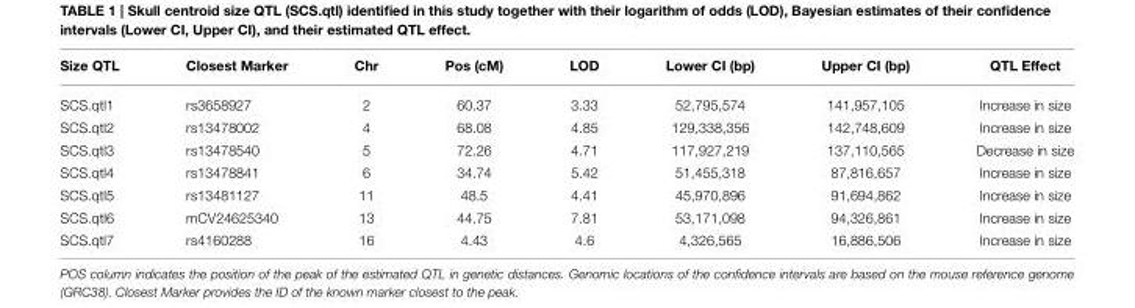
<table><thead><tr><td>Size QTL</td><td>Closest Marker</td><td>Chr</td><td>Pos (cM)</td><td>LOD</td><td>Lower CI (bp)</td><td>Upper CI (bp)</td><td>QTL Effect</td></tr></thead><tbody><tr><td>SCS.qtl1</td><td>rs3658927</td><td>2</td><td>60.37</td><td>3.33</td><td>52,795,574</td><td>141,957,105</td><td>Increase in size</td></tr><tr><td>SCS.qtl2</td><td>rs13478002</td><td>4</td><td>68.08</td><td>4.85</td><td>129,338,356</td><td>142,748,609</td><td>Increase in size</td></tr><tr><td>SCS.qtl3</td><td>rs13478540</td><td>5</td><td>72.26</td><td>4.71</td><td>117,927,219</td><td>137,110,565</td><td>Decrease in size</td></tr><tr><td>SCS.qtl4</td><td>rs13478841</td><td>6</td><td>34.74</td><td>5.42</td><td>51,455,318</td><td>87,816,657</td><td>Increase in size</td></tr><tr><td>SCS.qtl5</td><td>rs13481127</td><td>11</td><td>48.5</td><td>4.41</td><td>45,970,896</td><td>91,694,862</td><td>Increase in size</td></tr><tr><td>SCS.qtl6</td><td>mCV24625340</td><td>13</td><td>44.75</td><td>7.81</td><td>53,171,098</td><td>94,326,861</td><td>Increase in size</td></tr><tr><td>SCS.qtl7</td><td>rs4160288</td><td>16</td><td>4.43</td><td>4.6</td><td>4,326,565</td><td>16,886,506</td><td>Increase in size</td></tr></tbody></table>